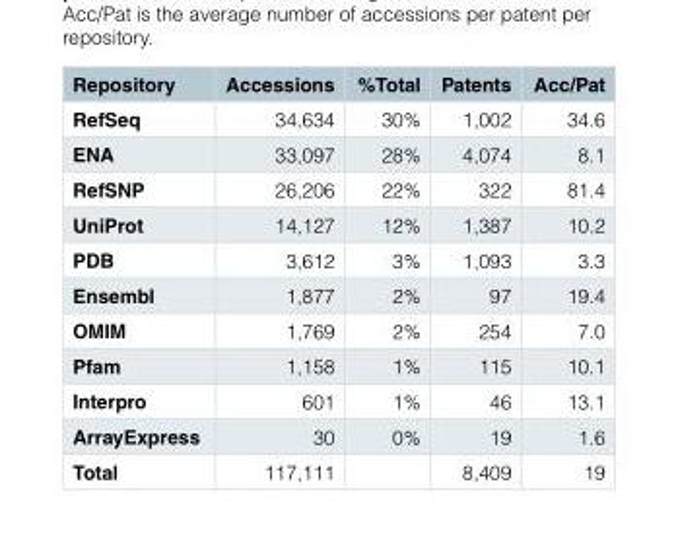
<table><thead><tr><td>Repository</td><td>Accessions</td><td>%Total</td><td>Patents</td><td>Acc/Pat</td></tr></thead><tbody><tr><td>RefSeq</td><td>34,634</td><td>30%</td><td>1,002</td><td>34.6</td></tr><tr><td>ENA</td><td>33,097</td><td>28%</td><td>4,074</td><td>8.1</td></tr><tr><td>RefSNP</td><td>26,206</td><td>22%</td><td>322</td><td>81.4</td></tr><tr><td>UniProt</td><td>14,127</td><td>12%</td><td>1,387</td><td>10.2</td></tr><tr><td>PDB</td><td>3,612</td><td>3%</td><td>1,093</td><td>3.3</td></tr><tr><td>Ensembl</td><td>1,877</td><td>2%</td><td>97</td><td>19.4</td></tr><tr><td>OMIM</td><td>1,769</td><td>2%</td><td>254</td><td>7.0</td></tr><tr><td>Pfam</td><td>1,158</td><td>1%</td><td>115</td><td>10.1</td></tr><tr><td>Interpro</td><td>601</td><td>1%</td><td>46</td><td>13.1</td></tr><tr><td>ArrayExpress</td><td>30</td><td>0%</td><td>19</td><td>1.6</td></tr><tr><td>Total</td><td>117,111</td><td></td><td>8,409</td><td>19</td></tr></tbody></table>